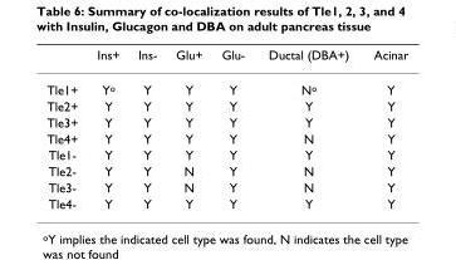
<table><thead><tr><td></td><td>Ins+</td><td>Ins-</td><td>Glu+</td><td>Glu-</td><td>Ductal (DBA+)</td><td>Acinar</td></tr></thead><tbody><tr><td>Tle1+</td><td>Y<sup>o</sup></td><td>Y</td><td>Y</td><td>Y</td><td>N<sup>o</sup></td><td>Y</td></tr><tr><td>Tle2+</td><td>Y</td><td>Y</td><td>Y</td><td>Y</td><td>Y</td><td>Y</td></tr><tr><td>Tle3+</td><td>Y</td><td>Y</td><td>Y</td><td>Y</td><td>Y</td><td>Y</td></tr><tr><td>Tle4+</td><td>Y</td><td>Y</td><td>Y</td><td>Y</td><td>N</td><td>Y</td></tr><tr><td>Tle1-</td><td>Y</td><td>Y</td><td>Y</td><td>Y</td><td>Y</td><td>Y</td></tr><tr><td>Tle2-</td><td>Y</td><td>Y</td><td>N</td><td>Y</td><td>N</td><td>Y</td></tr><tr><td>Tle3-</td><td>Y</td><td>Y</td><td>N</td><td>Y</td><td>N</td><td>Y</td></tr><tr><td>Tle4-</td><td>Y</td><td>Y</td><td>Y</td><td>Y</td><td>Y</td><td>Y</td></tr></tbody></table>